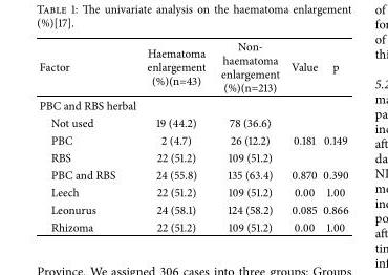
<table><thead><tr><td>Factor</td><td>Haematoma enlargement (%)(n=43)</td><td>Non- haematoma enlargement (%)(n=213)</td><td>Value</td><td>p</td></tr></thead><tbody><tr><td colspan="5">PBC and RBS herbal</td></tr><tr><td>Not used</td><td>19 (44.2)</td><td>78 (36.6)</td><td></td><td></td></tr><tr><td>PBC</td><td>2 (4.7)</td><td>26 (12.2)</td><td>0.181</td><td>0.149</td></tr><tr><td>RBS</td><td>22 (51.2)</td><td>109 (51.2)</td><td></td><td></td></tr><tr><td>PBC and RBS</td><td>24 (55.8)</td><td>135 (63.4)</td><td>0.870</td><td>0.390</td></tr><tr><td>Leech</td><td>22 (51.2)</td><td>109 (51.2)</td><td>0.00</td><td>1.00</td></tr><tr><td>Leonurus</td><td>24 (58.1)</td><td>124 (58.2)</td><td>0.085</td><td>0.866</td></tr><tr><td>Rhizoma</td><td>22 (51.2)</td><td>109 (51.2)</td><td>0.00</td><td>1.00</td></tr></tbody></table>